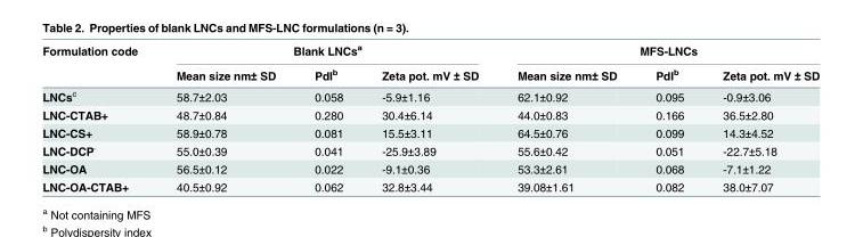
<table><thead><tr><td rowspan="2">Formulation code</td><td colspan="3">Blank LNCs<sup>a</sup></td><td colspan="3">MFS-LNCs</td></tr><tr><td>Mean size nm± SD</td><td>PdI<sup>b</sup></td><td>Zeta pot. mV ± SD</td><td>Mean size nm± SD</td><td>PdI<sup>b</sup></td><td>Zeta pot. mV ± SD</td></tr></thead><tbody><tr><td>LNCs<sup>c</sup></td><td>58.7±2.03</td><td>0.058</td><td>-5.9±1.16</td><td>62.1±0.92</td><td>0.095</td><td>-0.9±3.06</td></tr><tr><td>LNC-CTAB+</td><td>48.7±0.84</td><td>0.280</td><td>30.4±6.14</td><td>44.0±0.83</td><td>0.166</td><td>36.5±2.80</td></tr><tr><td>LNC-CS+</td><td>58.9±0.78</td><td>0.081</td><td>15.5±3.11</td><td>64.5±0.76</td><td>0.099</td><td>14.3±4.52</td></tr><tr><td>LNC-DCP¯</td><td>55.0±0.39</td><td>0.041</td><td>-25.9±3.89</td><td>55.6±0.42</td><td>0.051</td><td>-22.7±5.18</td></tr><tr><td>LNC-OA</td><td>56.5±0.12</td><td>0.022</td><td>-9.1±0.36</td><td>53.3±2.61</td><td>0.068</td><td>-7.1±1.22</td></tr><tr><td>LNC-OA-CTAB+</td><td>40.5±0.92</td><td>0.062</td><td>32.8±3.44</td><td>39.08±1.61</td><td>0.082</td><td>38.0±7.07</td></tr></tbody></table>